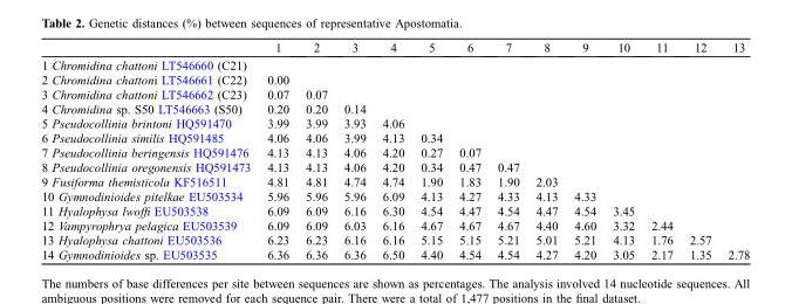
<table><thead><tr><td></td><td>1</td><td>2</td><td>3</td><td>4</td><td>5</td><td>6</td><td>7</td><td>8</td><td>9</td><td>10</td><td>11</td><td>12</td><td>13</td></tr></thead><tbody><tr><td colspan="14">1 Chromidina chattoni LT546660 (C21)</td></tr><tr><td>2 Chromidina chattoni LT546661 (C22)</td><td>0.00</td><td></td><td></td><td></td><td></td><td></td><td></td><td></td><td></td><td></td><td></td><td></td><td></td></tr><tr><td>3 Chromidina chattoni LT546662 (C23)</td><td>0.07</td><td>0.07</td><td></td><td></td><td></td><td></td><td></td><td></td><td></td><td></td><td></td><td></td><td></td></tr><tr><td>4 Chromidina sp. S50 LT546663 (S50)</td><td>0.20</td><td>0.20</td><td>0.14</td><td></td><td></td><td></td><td></td><td></td><td></td><td></td><td></td><td></td><td></td></tr><tr><td>5 Pseudocollinia brintoni HQ591470</td><td>3.99</td><td>3.99</td><td>3.93</td><td>4.06</td><td></td><td></td><td></td><td></td><td></td><td></td><td></td><td></td><td></td></tr><tr><td>6 Pseudocollinia similis HQ591485</td><td>4.06</td><td>4.06</td><td>3.99</td><td>4.13</td><td>0.34</td><td></td><td></td><td></td><td></td><td></td><td></td><td></td><td></td></tr><tr><td>7 Pseudocollinia beringensis HQ591476</td><td>4.13</td><td>4.13</td><td>4.06</td><td>4.20</td><td>0.27</td><td>0.07</td><td></td><td></td><td></td><td></td><td></td><td></td><td></td></tr><tr><td>8 Pseudocollinia oregonensis HQ591473</td><td>4.13</td><td>4.13</td><td>4.06</td><td>4.20</td><td>0.34</td><td>0.47</td><td>0.47</td><td></td><td></td><td></td><td></td><td></td><td></td></tr><tr><td>9 Fusiforma themisticola KF516511</td><td>4.81</td><td>4.81</td><td>4.74</td><td>4.74</td><td>1.90</td><td>1.83</td><td>1.90</td><td>2.03</td><td></td><td></td><td></td><td></td><td></td></tr><tr><td>10 Gymnodinioides pitelkae EU503534</td><td>5.96</td><td>5.96</td><td>5.96</td><td>6.09</td><td>4.13</td><td>4.27</td><td>4.33</td><td>4.13</td><td>4.33</td><td></td><td></td><td></td><td></td></tr><tr><td>11 Hyalophysa lwoffi EU503538</td><td>6.09</td><td>6.09</td><td>6.16</td><td>6.30</td><td>4.54</td><td>4.47</td><td>4.54</td><td>4.47</td><td>4.54</td><td>3.45</td><td></td><td></td><td></td></tr><tr><td>12 Vampyrophrya pelagica EU503539</td><td>6.09</td><td>6.09</td><td>6.03</td><td>6.16</td><td>4.67</td><td>4.67</td><td>4.67</td><td>4.40</td><td>4.60</td><td>3.32</td><td>2.44</td><td></td><td></td></tr><tr><td>13 Hyalophysa chattoni EU503536</td><td>6.23</td><td>6.23</td><td>6.16</td><td>6.16</td><td>5.15</td><td>5.15</td><td>5.21</td><td>5.01</td><td>5.21</td><td>4.13</td><td>1.76</td><td>2.57</td><td></td></tr><tr><td>14 Gymnodinioides sp. EU503535</td><td>6.36</td><td>6.36</td><td>6.36</td><td>6.50</td><td>4.40</td><td>4.54</td><td>4.54</td><td>4.27</td><td>4.20</td><td>3.05</td><td>2.17</td><td>1.35</td><td>2.78</td></tr></tbody></table>